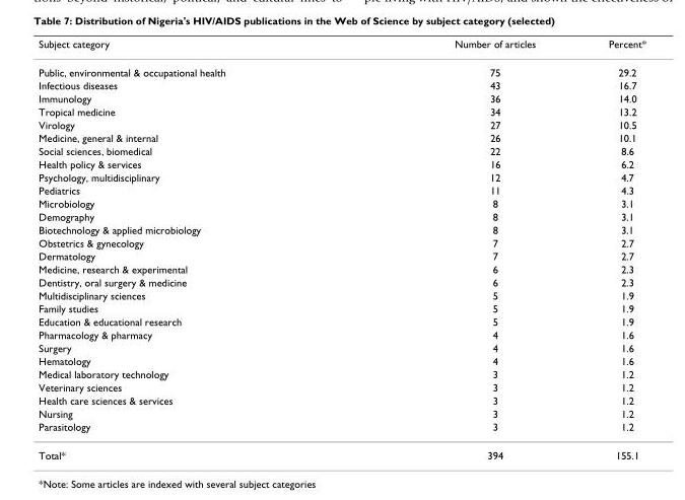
<table><thead><tr><td>Subject category</td><td>Number of articles</td><td>Percent*</td></tr></thead><tbody><tr><td>Public, environmental &amp; occupational health</td><td>75</td><td>29.2</td></tr><tr><td>Infectious diseases</td><td>43</td><td>16.7</td></tr><tr><td>Immunology</td><td>36</td><td>14.0</td></tr><tr><td>Tropical medicine</td><td>34</td><td>13.2</td></tr><tr><td>Virology</td><td>27</td><td>10.5</td></tr><tr><td>Medicine, general &amp; internal</td><td>26</td><td>10.1</td></tr><tr><td>Social sciences, biomedical</td><td>22</td><td>8.6</td></tr><tr><td>Health policy &amp; services</td><td>16</td><td>6.2</td></tr><tr><td>Psychology, multidisciplinary</td><td>12</td><td>4.7</td></tr><tr><td>Pediatrics</td><td>11</td><td>4.3</td></tr><tr><td>Microbiology</td><td>8</td><td>3.1</td></tr><tr><td>Demography</td><td>8</td><td>3.1</td></tr><tr><td>Biotechnology &amp; applied microbiology</td><td>8</td><td>3.1</td></tr><tr><td>Obstetrics &amp; gynecology</td><td>7</td><td>2.7</td></tr><tr><td>Dermatology</td><td>7</td><td>2.7</td></tr><tr><td>Medicine, research &amp; experimental</td><td>6</td><td>2.3</td></tr><tr><td>Dentistry, oral surgery &amp; medicine</td><td>6</td><td>2.3</td></tr><tr><td>Multidisciplinary sciences</td><td>5</td><td>1.9</td></tr><tr><td>Family studies</td><td>5</td><td>1.9</td></tr><tr><td>Education &amp; educational research</td><td>5</td><td>1.9</td></tr><tr><td>Pharmacology &amp; pharmacy</td><td>4</td><td>1.6</td></tr><tr><td>Surgery</td><td>4</td><td>1.6</td></tr><tr><td>Hematology</td><td>4</td><td>1.6</td></tr><tr><td>Medical laboratory technology</td><td>3</td><td>1.2</td></tr><tr><td>Veterinary sciences</td><td>3</td><td>1.2</td></tr><tr><td>Health care sciences &amp; services</td><td>3</td><td>1.2</td></tr><tr><td>Nursing</td><td>3</td><td>1.2</td></tr><tr><td>Parasitology</td><td>3</td><td>1.2</td></tr><tr><td>Total*</td><td>394</td><td>155.1</td></tr></tbody></table>